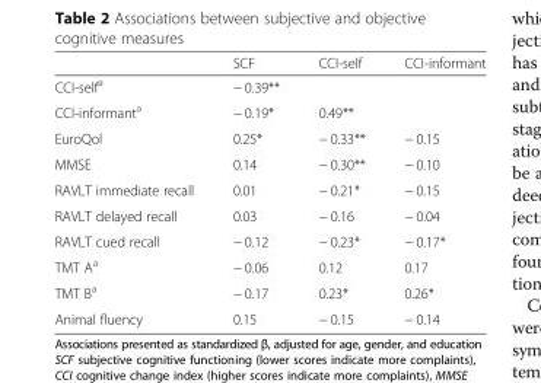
<table><thead><tr><td></td><td>SCF</td><td>CCI-self</td><td>CCI-informant</td></tr></thead><tbody><tr><td>CCI-self<sup>a</sup></td><td>− 0.39**</td><td></td><td></td></tr><tr><td>CCI-informant<sup>a</sup></td><td>− 0.19*</td><td>0.49**</td><td></td></tr><tr><td>EuroQol</td><td>0.25*</td><td>− 0.33**</td><td>− 0.15</td></tr><tr><td>MMSE</td><td>0.14</td><td>− 0.30**</td><td>− 0.10</td></tr><tr><td>RAVLT immediate recall</td><td>0.01</td><td>− 0.21*</td><td>− 0.15</td></tr><tr><td>RAVLT delayed recall</td><td>0.03</td><td>− 0.16</td><td>− 0.04</td></tr><tr><td>RAVLT cued recall</td><td>− 0.12</td><td>− 0.23*</td><td>− 0.17*</td></tr><tr><td>TMT A<sup>a</sup></td><td>− 0.06</td><td>0.12</td><td>0.17</td></tr><tr><td>TMT B<sup>a</sup></td><td>− 0.17</td><td>0.23*</td><td>0.26*</td></tr><tr><td>Animal fluency</td><td>0.15</td><td>− 0.15</td><td>− 0.14</td></tr></tbody></table>